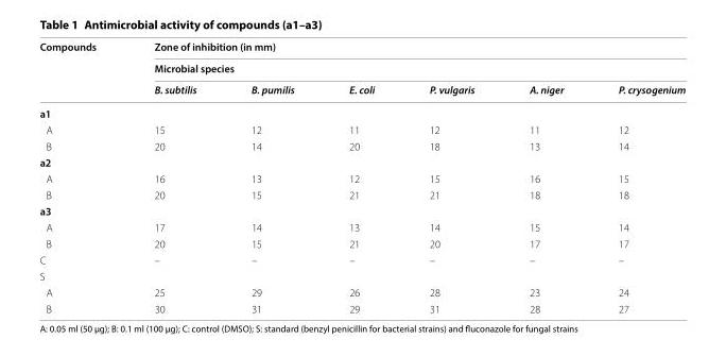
<table><thead><tr><td rowspan="3">Compounds</td><td rowspan="2" colspan="6">Zone of inhibition (in mm) Microbial species</td></tr><tr></tr><tr><td>B. subtilis</td><td>B. pumilis</td><td>E. coli</td><td>P. vulgaris</td><td>A. niger</td><td>P. crysogenium</td></tr></thead><tbody><tr><td colspan="7">a1</td></tr><tr><td>A</td><td>15</td><td>12</td><td>11</td><td>12</td><td>11</td><td>12</td></tr><tr><td>B</td><td>20</td><td>14</td><td>20</td><td>18</td><td>13</td><td>14</td></tr><tr><td colspan="7">a2</td></tr><tr><td>A</td><td>16</td><td>13</td><td>12</td><td>15</td><td>16</td><td>15</td></tr><tr><td>B</td><td>20</td><td>15</td><td>21</td><td>21</td><td>18</td><td>18</td></tr><tr><td colspan="7">a3</td></tr><tr><td>A</td><td>17</td><td>14</td><td>13</td><td>14</td><td>15</td><td>14</td></tr><tr><td>B</td><td>20</td><td>15</td><td>21</td><td>20</td><td>17</td><td>17</td></tr><tr><td>C</td><td>–</td><td>–</td><td>–</td><td>–</td><td>–</td><td>–</td></tr><tr><td colspan="7">S</td></tr><tr><td>A</td><td>25</td><td>29</td><td>26</td><td>28</td><td>23</td><td>24</td></tr><tr><td>B</td><td>30</td><td>31</td><td>29</td><td>31</td><td>28</td><td>27</td></tr></tbody></table>